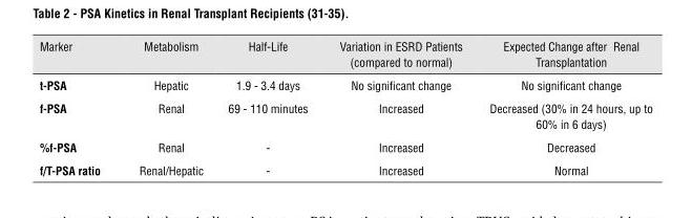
<table><thead><tr><td>Marker</td><td>Metabolism</td><td>Half-Life</td><td>Variation in ESRD Patients (compared to normal)</td><td>Expected Change after Renal Transplantation</td></tr></thead><tbody><tr><td>t-psA</td><td>Hepatic</td><td>1.9 - 3.4 days</td><td>No significant change</td><td>No significant change</td></tr><tr><td>f-psA</td><td>Renal</td><td>69 - 110 minutes</td><td>Increased</td><td>Decreased (30% in 24 hours, up to 60% in 6 days)</td></tr><tr><td>%f-psA</td><td>Renal</td><td>-</td><td>Increased</td><td>Decreased</td></tr><tr><td>f/T-psA ratio</td><td>Renal/Hepatic</td><td>-</td><td>Increased</td><td>Normal</td></tr></tbody></table>